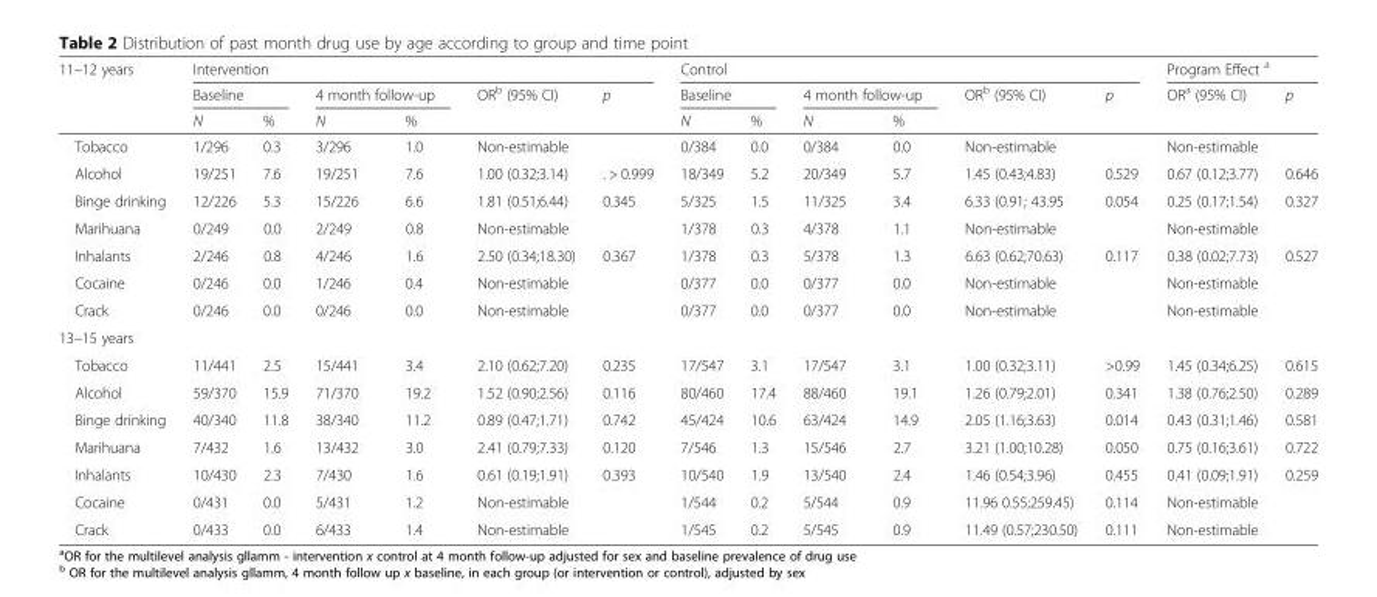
<table><thead><tr><td rowspan="3">11–12 years</td><td colspan="6">Intervention</td><td colspan="6">Control</td><td colspan="2">Program Effect <sup>a</sup></td></tr><tr><td colspan="2">Baseline</td><td colspan="2">4 month follow-up</td><td rowspan="2">OR<sup>b</sup> (95% CI)</td><td rowspan="2">p</td><td colspan="2">Baseline</td><td colspan="2">4 month follow-up</td><td rowspan="2">OR<sup>b</sup> (95% CI)</td><td rowspan="2">p</td><td rowspan="2">OR<sup>a</sup> (95% CI)</td><td rowspan="2">p</td></tr><tr><td>N</td><td>%</td><td>N</td><td>%</td><td>N</td><td>%</td><td>N</td><td>%</td></tr></thead><tbody><tr><td>Tobacco</td><td>1/296</td><td>0.3</td><td>3/296</td><td>1.0</td><td>Non-estimable</td><td></td><td>0/384</td><td>0.0</td><td>0/384</td><td>0.0</td><td>Non-estimable</td><td></td><td>Non-estimable</td><td></td></tr><tr><td>Alcohol</td><td>19/251</td><td>7.6</td><td>19/251</td><td>7.6</td><td>1.00 (0.32;3.14)</td><td>. &gt; 0.999</td><td>18/349</td><td>5.2</td><td>20/349</td><td>5.7</td><td>1.45 (0.43;4.83)</td><td>0.529</td><td>0.67 (0.12;3.77)</td><td>0.646</td></tr><tr><td>Binge drinking</td><td>12/226</td><td>5.3</td><td>15/226</td><td>6.6</td><td>1.81 (0.51;6.44)</td><td>0.345</td><td>5/325</td><td>1.5</td><td>11/325</td><td>3.4</td><td>6.33 (0.91; 43.95</td><td>0.054</td><td>0.25 (0.17;1.54)</td><td>0.327</td></tr><tr><td>Marihuana</td><td>0/249</td><td>0.0</td><td>2/249</td><td>0.8</td><td>Non-estimable</td><td></td><td>1/378</td><td>0.3</td><td>4/378</td><td>1.1</td><td>Non-estimable</td><td></td><td>Non-estimable</td><td></td></tr><tr><td>Inhalants</td><td>2/246</td><td>0.8</td><td>4/246</td><td>1.6</td><td>2.50 (0.34;18.30)</td><td>0.367</td><td>1/378</td><td>0.3</td><td>5/378</td><td>1.3</td><td>6.63 (0.62;70.63)</td><td>0.117</td><td>0.38 (0.02;7.73)</td><td>0.527</td></tr><tr><td>Cocaine</td><td>0/246</td><td>0.0</td><td>1/246</td><td>0.4</td><td>Non-estimable</td><td></td><td>0/377</td><td>0.0</td><td>0/377</td><td>0.0</td><td>Non-estimable</td><td></td><td>Non-estimable</td><td></td></tr><tr><td>Crack</td><td>0/246</td><td>0.0</td><td>0/246</td><td>0.0</td><td>Non-estimable</td><td></td><td>0/377</td><td>0.0</td><td>0/377</td><td>0.0</td><td>Non-estimable</td><td></td><td>Non-estimable</td><td></td></tr><tr><td colspan="15">13–15 years</td></tr><tr><td>Tobacco</td><td>11/441</td><td>2.5</td><td>15/441</td><td>3.4</td><td>2.10 (0.62;7.20)</td><td>0.235</td><td>17/547</td><td>3.1</td><td>17/547</td><td>3.1</td><td>1.00 (0.32;3.11)</td><td>&gt;0.99</td><td>1.45 (0.34;6.25)</td><td>0.615</td></tr><tr><td>Alcohol</td><td>59/370</td><td>15.9</td><td>71/370</td><td>19.2</td><td>1.52 (0.90;2.56)</td><td>0.116</td><td>80/460</td><td>17.4</td><td>88/460</td><td>19.1</td><td>1.26 (0.79;2.01)</td><td>0.341</td><td>1.38 (0.76;2.50)</td><td>0.289</td></tr><tr><td>Binge drinking</td><td>40/340</td><td>11.8</td><td>38/340</td><td>11.2</td><td>0.89 (0.47;1.71)</td><td>0.742</td><td>45/424</td><td>10.6</td><td>63/424</td><td>14.9</td><td>2.05 (1.16;3.63)</td><td>0.014</td><td>0.43 (0.31;1.46)</td><td>0.581</td></tr><tr><td>Marihuana</td><td>7/432</td><td>1.6</td><td>13/432</td><td>3.0</td><td>2.41 (0.79;7.33)</td><td>0.120</td><td>7/546</td><td>1.3</td><td>15/546</td><td>2.7</td><td>3.21 (1.00;10.28)</td><td>0.050</td><td>0.75 (0.16;3.61)</td><td>0.722</td></tr><tr><td>Inhalants</td><td>10/430</td><td>2.3</td><td>7/430</td><td>1.6</td><td>0.61 (0.19;1.91)</td><td>0.393</td><td>10/540</td><td>1.9</td><td>13/540</td><td>2.4</td><td>1.46 (0.54;3.96)</td><td>0.455</td><td>0.41 (0.09;1.91)</td><td>0.259</td></tr><tr><td>Cocaine</td><td>0/431</td><td>0.0</td><td>5/431</td><td>1.2</td><td>Non-estimable</td><td></td><td>1/544</td><td>0.2</td><td>5/544</td><td>0.9</td><td>11.96 0.55;259.45)</td><td>0.114</td><td>Non-estimable</td><td></td></tr><tr><td>Crack</td><td>0/433</td><td>0.0</td><td>6/433</td><td>1.4</td><td>Non-estimable</td><td></td><td>1/545</td><td>0.2</td><td>5/545</td><td>0.9</td><td>11.49 (0.57;230.50)</td><td>0.111</td><td>Non-estimable</td><td></td></tr></tbody></table>